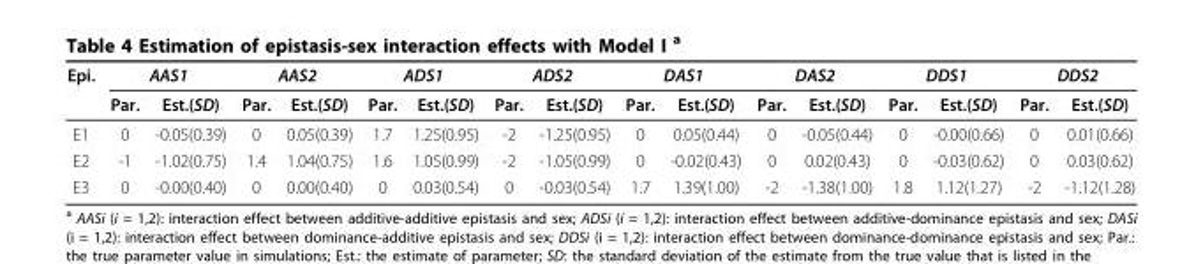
<table><thead><tr><td rowspan="2">Epi.</td><td colspan="2">AAS1</td><td colspan="2">AAS2</td><td colspan="2">ADS1</td><td colspan="2">ADS2</td><td colspan="2">DAS1</td><td colspan="2">DAS2</td><td colspan="2">DDS1</td><td colspan="2">DDS2</td></tr><tr><td>Par.</td><td>Est.(SD)</td><td>Par.</td><td>Est.(SD)</td><td>Par.</td><td>Est.(SD)</td><td>Par.</td><td>Est.(SD)</td><td>Par.</td><td>Est.(SD)</td><td>Par.</td><td>Est.(SD)</td><td>Par.</td><td>Est.(SD)</td><td>Par.</td><td>Est.(SD)</td></tr></thead><tbody><tr><td>E1</td><td>0</td><td>-0.05(0.39)</td><td>0</td><td>0.05(0.39)</td><td>1.7</td><td>1.25(0.95)</td><td>-2</td><td>-1.25(0.95)</td><td>0</td><td>0.05(0.44)</td><td>0</td><td>-0.05(0.44)</td><td>0</td><td>-0.00(0.66)</td><td>0</td><td>0.01(0.66)</td></tr><tr><td>E2</td><td>-1</td><td>-1.02(0.75)</td><td>1.4</td><td>1.04(0.75)</td><td>1.6</td><td>1.05(0.99)</td><td>-2</td><td>-1.05(0.99)</td><td>0</td><td>-0.02(0.43)</td><td>0</td><td>0.02(0.43)</td><td>0</td><td>-0.03(0.62)</td><td>0</td><td>0.03(0.62)</td></tr><tr><td>E3</td><td>0</td><td>-0.00(0.40)</td><td>0</td><td>0.00(0.40)</td><td>0</td><td>0.03(0.54)</td><td>0</td><td>-0.03(0.54)</td><td>1.7</td><td>1.39(1.00)</td><td>-2</td><td>-1.38(1.00)</td><td>1.8</td><td>1.12(1.27)</td><td>-2</td><td>-1.12(1.28)</td></tr></tbody></table>